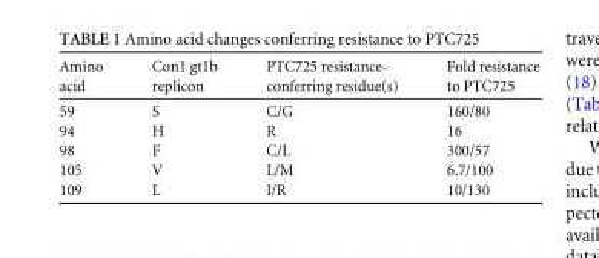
<table><thead><tr><td>Amino acid</td><td>Con1 gt1b replicon</td><td>PTC725 resistance- conferring residue(s)</td><td>Fold resistance to PTC725</td></tr></thead><tbody><tr><td>59</td><td>S</td><td>C/G</td><td>160/80</td></tr><tr><td>94</td><td>H</td><td>R</td><td>16</td></tr><tr><td>98</td><td>F</td><td>C/L</td><td>300/57</td></tr><tr><td>105</td><td>V</td><td>L/M</td><td>6.7/100</td></tr><tr><td>109</td><td>L</td><td>I/R</td><td>10/130</td></tr></tbody></table>